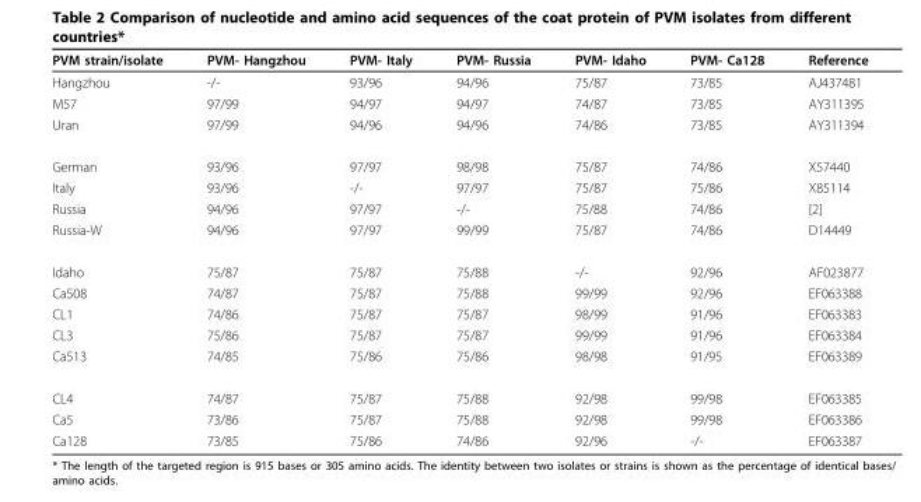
<table><thead><tr><td>PVM strain/isolate</td><td>PVM- Hangzhou</td><td>PVM- Italy</td><td>PVM- Russia</td><td>PVM- Idaho</td><td>PVM- Ca128</td><td>Reference</td></tr></thead><tbody><tr><td>Hangzhou</td><td>-/-</td><td>93/96</td><td>94/96</td><td>75/87</td><td>73/85</td><td>AJ437481</td></tr><tr><td>M57</td><td>97/99</td><td>94/97</td><td>94/97</td><td>74/87</td><td>73/85</td><td>AY311395</td></tr><tr><td>Uran</td><td>97/99</td><td>94/96</td><td>94/96</td><td>74/86</td><td>73/85</td><td>AY311394</td></tr><tr><td>German</td><td>93/96</td><td>97/97</td><td>98/98</td><td>75/87</td><td>74/86</td><td>X57440</td></tr><tr><td>Italy</td><td>93/96</td><td>-/-</td><td>97/97</td><td>75/87</td><td>75/86</td><td>X85114</td></tr><tr><td>Russia</td><td>94/96</td><td>97/97</td><td>-/-</td><td>75/88</td><td>74/86</td><td>[2]</td></tr><tr><td>Russia-W</td><td>94/96</td><td>97/97</td><td>99/99</td><td>75/87</td><td>74/86</td><td>D14449</td></tr><tr><td>Idaho</td><td>75/87</td><td>75/87</td><td>75/88</td><td>-/-</td><td>92/96</td><td>AF023877</td></tr><tr><td>Ca508</td><td>74/87</td><td>75/87</td><td>75/88</td><td>99/99</td><td>92/96</td><td>EF063388</td></tr><tr><td>CL1</td><td>74/86</td><td>75/87</td><td>75/87</td><td>98/99</td><td>91/96</td><td>EF063383</td></tr><tr><td>CL3</td><td>75/86</td><td>75/87</td><td>75/87</td><td>99/99</td><td>91/96</td><td>EF063384</td></tr><tr><td>Ca513</td><td>74/85</td><td>75/86</td><td>75/86</td><td>98/98</td><td>91/95</td><td>EF063389</td></tr><tr><td>CL4</td><td>74/87</td><td>75/87</td><td>75/88</td><td>92/98</td><td>99/98</td><td>EF063385</td></tr><tr><td>Ca5</td><td>73/86</td><td>75/87</td><td>75/88</td><td>92/98</td><td>99/98</td><td>EF063386</td></tr><tr><td>Ca128</td><td>73/85</td><td>75/86</td><td>74/86</td><td>92/96</td><td>-/-</td><td>EF063387</td></tr></tbody></table>